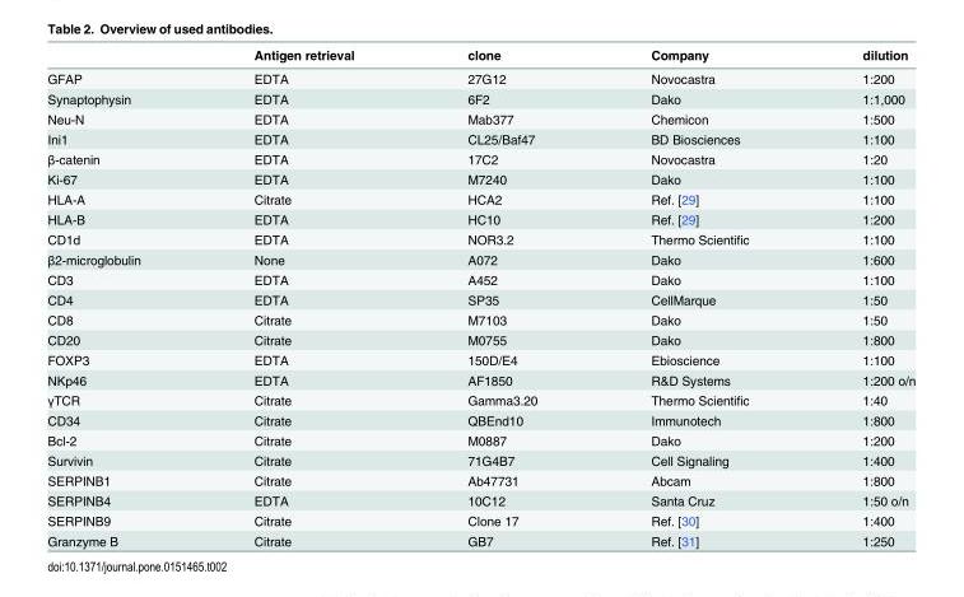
<table><thead><tr><td></td><td>Antigen retrieval</td><td>clone</td><td>Company</td><td>dilution</td></tr></thead><tbody><tr><td>GFAP</td><td>EDTA</td><td>27G12</td><td>Novocastra</td><td>1:200</td></tr><tr><td>Synaptophysin</td><td>EDTA</td><td>6F2</td><td>Dako</td><td>1:1,000</td></tr><tr><td>Neu-N</td><td>EDTA</td><td>Mab377</td><td>Chemicon</td><td>1:500</td></tr><tr><td>Ini1</td><td>EDTA</td><td>CL25/Baf47</td><td>BD Biosciences</td><td>1:100</td></tr><tr><td>β-catenin</td><td>EDTA</td><td>17C2</td><td>Novocastra</td><td>1:20</td></tr><tr><td>Ki-67</td><td>EDTA</td><td>M7240</td><td>Dako</td><td>1:100</td></tr><tr><td>HLA-A</td><td>Citrate</td><td>HCA2</td><td>Ref. [29]</td><td>1:100</td></tr><tr><td>HLA-B</td><td>EDTA</td><td>HC10</td><td>Ref. [29]</td><td>1:200</td></tr><tr><td>CD1d</td><td>EDTA</td><td>NOR3.2</td><td>Thermo Scientific</td><td>1:100</td></tr><tr><td>β2-microglobulin</td><td>None</td><td>A072</td><td>Dako</td><td>1:600</td></tr><tr><td>CD3</td><td>EDTA</td><td>A452</td><td>Dako</td><td>1:100</td></tr><tr><td>CD4</td><td>EDTA</td><td>SP35</td><td>CellMarque</td><td>1:50</td></tr><tr><td>CD8</td><td>Citrate</td><td>M7103</td><td>Dako</td><td>1:50</td></tr><tr><td>CD20</td><td>Citrate</td><td>M0755</td><td>Dako</td><td>1:800</td></tr><tr><td>FOXP3</td><td>EDTA</td><td>150D/E4</td><td>Ebioscience</td><td>1:100</td></tr><tr><td>NKp46</td><td>EDTA</td><td>AF1850</td><td>R&amp;D Systems</td><td>1:200 o/n</td></tr><tr><td>γTCR</td><td>Citrate</td><td>Gamma3.20</td><td>Thermo Scientific</td><td>1:40</td></tr><tr><td>CD34</td><td>Citrate</td><td>QBEnd10</td><td>Immunotech</td><td>1:800</td></tr><tr><td>Bcl-2</td><td>Citrate</td><td>M0887</td><td>Dako</td><td>1:200</td></tr><tr><td>Survivin</td><td>Citrate</td><td>71G4B7</td><td>Cell Signaling</td><td>1:400</td></tr><tr><td>SERPINB1</td><td>Citrate</td><td>Ab47731</td><td>Abcam</td><td>1:800</td></tr><tr><td>SERPINB4</td><td>EDTA</td><td>10C12</td><td>Santa Cruz</td><td>1:50 o/n</td></tr><tr><td>SERPINB9</td><td>Citrate</td><td>Clone 17</td><td>Ref. [30]</td><td>1:400</td></tr><tr><td>Granzyme B</td><td>Citrate</td><td>GB7</td><td>Ref. [31]</td><td>1:250</td></tr></tbody></table>